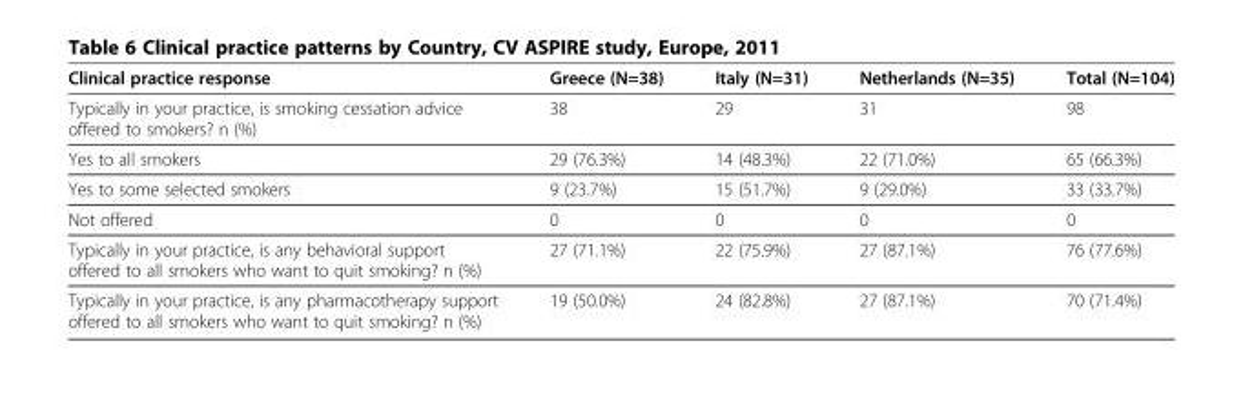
<table><thead><tr><td>Clinical practice response</td><td>Greece (N=38)</td><td>Italy (N=31)</td><td>Netherlands (N=35)</td><td>Total (N=104)</td></tr></thead><tbody><tr><td>Typically in your practice, is smoking cessation advice offered to smokers? n (%)</td><td>38</td><td>29</td><td>31</td><td>98</td></tr><tr><td>Yes to all smokers</td><td>29 (76.3%)</td><td>14 (48.3%)</td><td>22 (71.0%)</td><td>65 (66.3%)</td></tr><tr><td>Yes to some selected smokers</td><td>9 (23.7%)</td><td>15 (51.7%)</td><td>9 (29.0%)</td><td>33 (33.7%)</td></tr><tr><td>Not offered</td><td>0</td><td>0</td><td>0</td><td>0</td></tr><tr><td>Typically in your practice, is any behavioral support offered to all smokers who want to quit smoking? n (%)</td><td>27 (71.1%)</td><td>22 (75.9%)</td><td>27 (87.1%)</td><td>76 (77.6%)</td></tr><tr><td>Typically in your practice, is any pharmacotherapy support offered to all smokers who want to quit smoking? n (%)</td><td>19 (50.0%)</td><td>24 (82.8%)</td><td>27 (87.1%)</td><td>70 (71.4%)</td></tr></tbody></table>